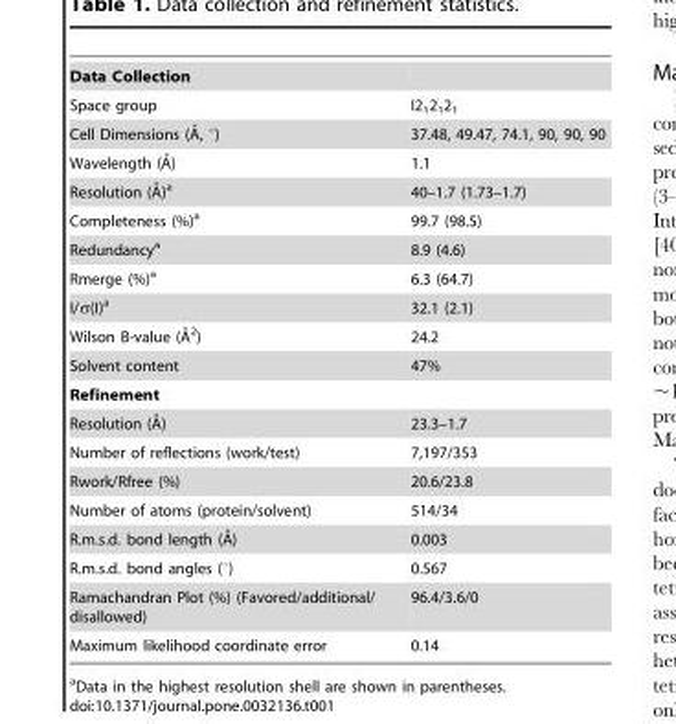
<table><tbody><tr><td colspan="2">Data Collection</td></tr><tr><td>Space group</td><td>I2<sub>1</sub>2<sub>1</sub>2<sub>1</sub></td></tr><tr><td>Cell Dimensions (A˚, u)</td><td>37.48, 49.47, 74.1, 90, 90, 90</td></tr><tr><td>Wavelength (A˚)</td><td>1.1</td></tr><tr><td>Resolution (A˚)a</td><td>40–1.7 (1.73–1.7)</td></tr><tr><td>Completeness (%)<sup>a</sup></td><td>99.7 (98.5)</td></tr><tr><td>Redundancy<sup>a</sup></td><td>8.9 (4.6)</td></tr><tr><td>Rmerge (%)<sup>a</sup></td><td>6.3 (64.7)</td></tr><tr><td>I/σ(I)<sup>a</sup></td><td>32.1 (2.1)</td></tr><tr><td>Wilson B-value (A˚2)</td><td>24.2</td></tr><tr><td>Solvent content</td><td>47%</td></tr><tr><td colspan="2">Refinement</td></tr><tr><td>Resolution (A˚)</td><td>23.3–1.7</td></tr><tr><td>Number of reflections (work/test)</td><td>7,197/353</td></tr><tr><td>Rwork/Rfree (%)</td><td>20.6/23.8</td></tr><tr><td>Number of atoms (protein/solvent)</td><td>514/34</td></tr><tr><td>R.m.s.d. bond length (A˚)</td><td>0.003</td></tr><tr><td>R.m.s.d. bond angles (°)</td><td>0.567</td></tr><tr><td>Ramachandran Plot (%) (Favored/additional/ disallowed)</td><td>96.4/3.6/0</td></tr><tr><td>Maximum likelihood coordinate error</td><td>0.14</td></tr></tbody></table>